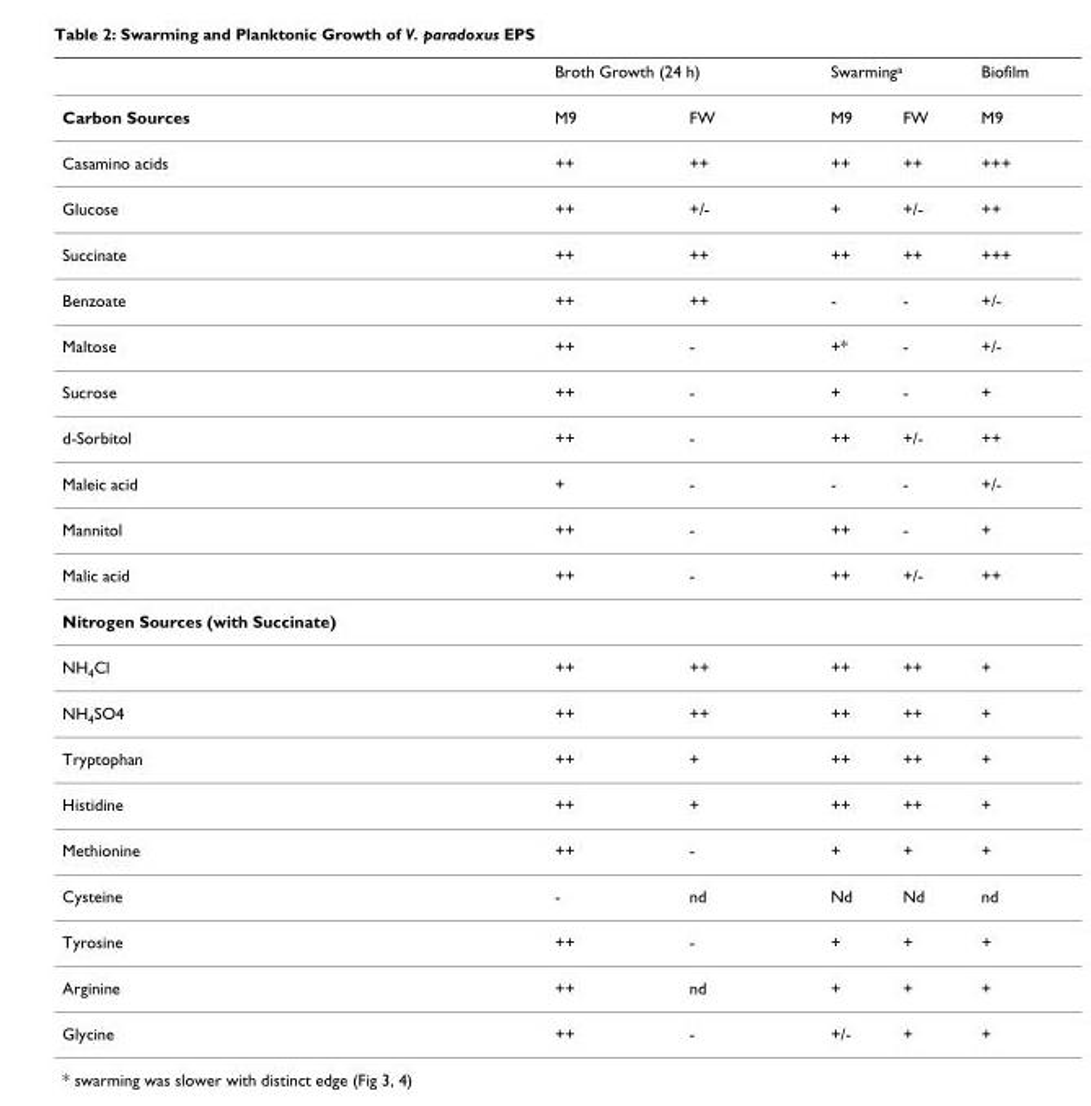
<table><thead><tr><td rowspan="2">Carbon Sources</td><td colspan="2">Broth Growth (24 h)</td><td colspan="2">Swarming<sup>a</sup></td><td rowspan="2">Biofilm M9</td></tr><tr><td>M9</td><td>FW</td><td>M9</td><td>FW</td></tr></thead><tbody><tr><td>Casamino acids</td><td>++</td><td>++</td><td>++</td><td>++</td><td>+++</td></tr><tr><td>Glucose</td><td>++</td><td>+/-</td><td>+</td><td>+/-</td><td>++</td></tr><tr><td>Succinate</td><td>++</td><td>++</td><td>++</td><td>++</td><td>+++</td></tr><tr><td>Benzoate</td><td>++</td><td>++</td><td>-</td><td>-</td><td>+/-</td></tr><tr><td>Maltose</td><td>++</td><td>-</td><td>+*</td><td>-</td><td>+/-</td></tr><tr><td>Sucrose</td><td>++</td><td>-</td><td>+</td><td>-</td><td>+</td></tr><tr><td>d-Sorbitol</td><td>++</td><td>-</td><td>++</td><td>+/-</td><td>++</td></tr><tr><td>Maleic acid</td><td>+</td><td>-</td><td>-</td><td>-</td><td>+/-</td></tr><tr><td>Mannitol</td><td>++</td><td>-</td><td>++</td><td>-</td><td>+</td></tr><tr><td>Malic acid</td><td>++</td><td>-</td><td>++</td><td>+/-</td><td>++</td></tr><tr><td colspan="6">Nitrogen Sources (with Succinate)</td></tr><tr><td>NH<sub>4</sub>Cl</td><td>++</td><td>++</td><td>++</td><td>++</td><td>+</td></tr><tr><td>NH<sub>4</sub>SO4</td><td>++</td><td>++</td><td>++</td><td>++</td><td>+</td></tr><tr><td>Tryptophan</td><td>++</td><td>+</td><td>++</td><td>++</td><td>+</td></tr><tr><td>Histidine</td><td>++</td><td>+</td><td>++</td><td>++</td><td>+</td></tr><tr><td>Methionine</td><td>++</td><td>-</td><td>+</td><td>+</td><td>+</td></tr><tr><td>Cysteine</td><td>-</td><td>nd</td><td>Nd</td><td>Nd</td><td>nd</td></tr><tr><td>Tyrosine</td><td>++</td><td>-</td><td>+</td><td>+</td><td>+</td></tr><tr><td>Arginine</td><td>++</td><td>nd</td><td>+</td><td>+</td><td>+</td></tr><tr><td>Glycine</td><td>++</td><td>-</td><td>+/-</td><td>+</td><td>+</td></tr></tbody></table>